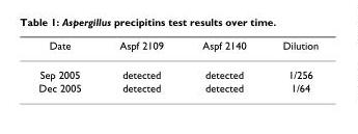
<table><thead><tr><td>Date</td><td>Aspf 2109</td><td>Aspf 2140</td><td>Dilution</td></tr></thead><tbody><tr><td>Sep 2005</td><td>detected</td><td>detected</td><td>1/256</td></tr><tr><td>Dec 2005</td><td>detected</td><td>detected</td><td>1/64</td></tr></tbody></table>